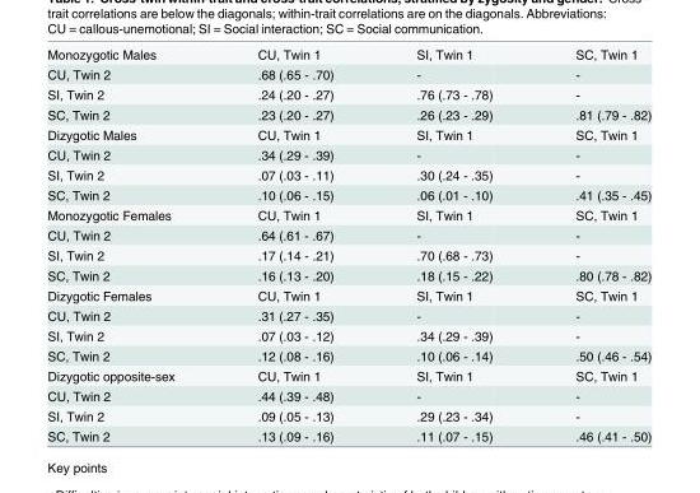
<table><tbody><tr><td>Monozygotic Males</td><td>CU, Twin 1</td><td>SI, Twin 1</td><td>SC, Twin 1</td></tr><tr><td>CU, Twin 2</td><td>.68 (.65 - .70)</td><td>-</td><td>-</td></tr><tr><td>SI, Twin 2</td><td>.24 (.20 - .27)</td><td>.76 (.73 - .78)</td><td>-</td></tr><tr><td>SC, Twin 2</td><td>.23 (.20 - .27)</td><td>.26 (.23 - .29)</td><td>.81 (.79 - .82)</td></tr><tr><td>Dizygotic Males</td><td>CU, Twin 1</td><td>SI, Twin 1</td><td>SC, Twin 1</td></tr><tr><td>CU, Twin 2</td><td>.34 (.29 - .39)</td><td>-</td><td>-</td></tr><tr><td>SI, Twin 2</td><td>.07 (.03 - .11)</td><td>.30 (.24 - .35)</td><td>-</td></tr><tr><td>SC, Twin 2</td><td>.10 (.06 - .15)</td><td>.06 (.01 - .10)</td><td>.41 (.35 - .45)</td></tr><tr><td>Monozygotic Females</td><td>CU, Twin 1</td><td>SI, Twin 1</td><td>SC, Twin 1</td></tr><tr><td>CU, Twin 2</td><td>.64 (.61 - .67)</td><td>-</td><td>-</td></tr><tr><td>SI, Twin 2</td><td>.17 (.14 - .21)</td><td>.70 (.68 - .73)</td><td>-</td></tr><tr><td>SC, Twin 2</td><td>.16 (.13 - .20)</td><td>.18 (.15 - .22)</td><td>.80 (.78 - .82)</td></tr><tr><td>Dizygotic Females</td><td>CU, Twin 1</td><td>SI, Twin 1</td><td>SC, Twin 1</td></tr><tr><td>CU, Twin 2</td><td>.31 (.27 - .35)</td><td>-</td><td>-</td></tr><tr><td>SI, Twin 2</td><td>.07 (.03 - .12)</td><td>.34 (.29 - .39)</td><td>-</td></tr><tr><td>SC, Twin 2</td><td>.12 (.08 - .16)</td><td>.10 (.06 - .14)</td><td>.50 (.46 - .54)</td></tr><tr><td>Dizygotic opposite-sex</td><td>CU, Twin 1</td><td>SI, Twin 1</td><td>SC, Twin 1</td></tr><tr><td>CU, Twin 2</td><td>.44 (.39 - .48)</td><td>-</td><td>-</td></tr><tr><td>SI, Twin 2</td><td>.09 (.05 - .13)</td><td>.29 (.23 - .34)</td><td>-</td></tr><tr><td>SC, Twin 2</td><td>.13 (.09 - .16)</td><td>.11 (.07 - .15)</td><td>.46 (.41 - .50)</td></tr></tbody></table>